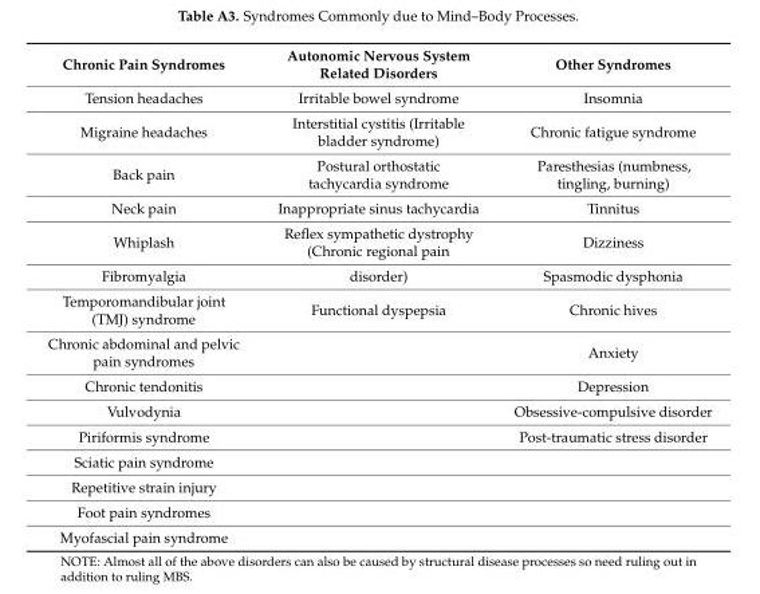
<table><thead><tr><td>Chronic Pain Syndromes</td><td>Autonomic Nervous System Related Disorders</td><td>Other Syndromes</td></tr></thead><tbody><tr><td>Tension headaches</td><td>Irritable bowel syndrome</td><td>Insomnia</td></tr><tr><td>Migraine headaches</td><td>Interstitial cystitis (Irritable bladder syndrome)</td><td>Chronic fatigue syndrome</td></tr><tr><td>Back pain</td><td>Postural orthostatic tachycardia syndrome</td><td>Paresthesias (numbness, tingling, burning)</td></tr><tr><td>Neck pain</td><td>Inappropriate sinus tachycardia</td><td>Tinnitus</td></tr><tr><td>Whiplash</td><td>Reflex sympathetic dystrophy (Chronic regional pain</td><td>Dizziness</td></tr><tr><td>Fibromyalgia</td><td>disorder)</td><td>Spasmodic dysphonia</td></tr><tr><td>Temporomandibular joint (TMJ) syndrome</td><td>Functional dyspepsia</td><td>Chronic hives</td></tr><tr><td>Chronic abdominal and pelvic pain syndromes</td><td></td><td>Anxiety</td></tr><tr><td>Chronic tendonitis</td><td></td><td>Depression</td></tr><tr><td>Vulvodynia</td><td></td><td>Obsessive-compulsive disorder</td></tr><tr><td>Piriformis syndrome</td><td></td><td>Post-traumatic stress disorder</td></tr><tr><td colspan="3">Sciatic pain syndrome</td></tr><tr><td colspan="3">Repetitive strain injury</td></tr><tr><td colspan="3">Foot pain syndromes</td></tr><tr><td>Myofascial pain syndrome</td><td></td><td></td></tr></tbody></table>